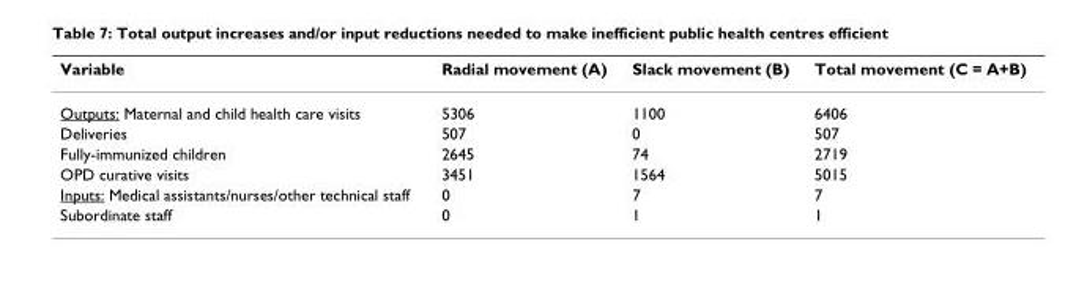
<table><thead><tr><td>Variable</td><td>Radial movement (A)</td><td>Slack movement (B)</td><td>Total movement (C = A+B)</td></tr></thead><tbody><tr><td>Outputs: Maternal and child health care visits</td><td>5306</td><td>1100</td><td>6406</td></tr><tr><td>Deliveries</td><td>507</td><td>0</td><td>507</td></tr><tr><td>Fully-immunized children</td><td>2645</td><td>74</td><td>2719</td></tr><tr><td>OPD curative visits</td><td>3451</td><td>1564</td><td>5015</td></tr><tr><td>Inputs: Medical assistants/nurses/other technical staff</td><td>0</td><td>7</td><td>7</td></tr><tr><td>Subordinate staff</td><td>0</td><td>1</td><td>1</td></tr></tbody></table>